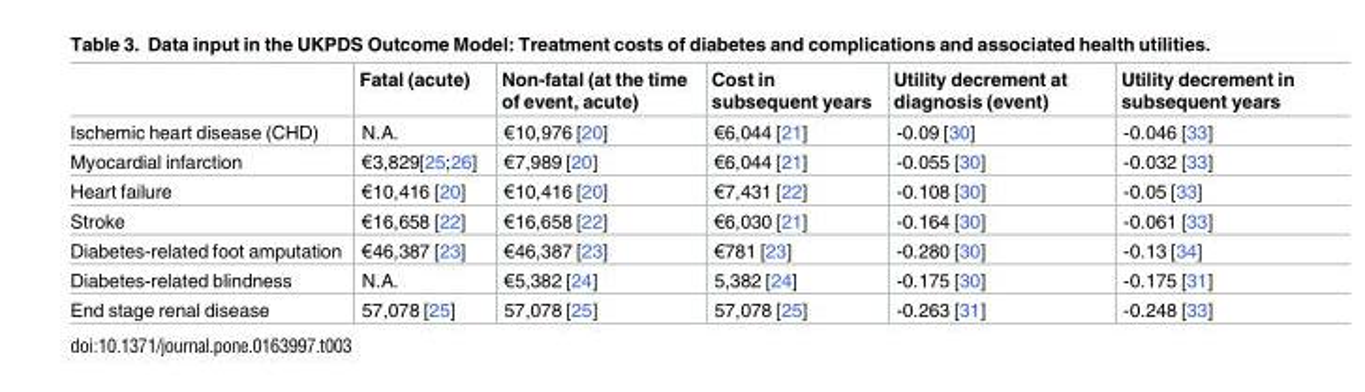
<table><thead><tr><td></td><td>Fatal (acute)</td><td>Non-fatal (at the time of event, acute)</td><td>Cost in subsequent years</td><td>Utility decrement at diagnosis (event)</td><td>Utility decrement in subsequent years</td></tr></thead><tbody><tr><td>Ischemic heart disease (CHD)</td><td>N.A.</td><td>€10,976 [20]</td><td>€6,044 [21]</td><td>-0.09 [30]</td><td>-0.046 [33]</td></tr><tr><td>Myocardial infarction</td><td>€3,829[25;26]</td><td>€7,989 [20]</td><td>€6,044 [21]</td><td>-0.055 [30]</td><td>-0.032 [33]</td></tr><tr><td>Heart failure</td><td>€10,416 [20]</td><td>€10,416 [20]</td><td>€7,431 [22]</td><td>-0.108 [30]</td><td>-0.05 [33]</td></tr><tr><td>Stroke</td><td>€16,658 [22]</td><td>€16,658 [22]</td><td>€6,030 [21]</td><td>-0.164 [30]</td><td>-0.061 [33]</td></tr><tr><td>Diabetes-related foot amputation</td><td>€46,387 [23]</td><td>€46,387 [23]</td><td>€781 [23]</td><td>-0.280 [30]</td><td>-0.13 [34]</td></tr><tr><td>Diabetes-related blindness</td><td>N.A.</td><td>€5,382 [24]</td><td>5,382 [24]</td><td>-0.175 [30]</td><td>-0.175 [31]</td></tr><tr><td>End stage renal disease</td><td>57,078 [25]</td><td>57,078 [25]</td><td>57,078 [25]</td><td>-0.263 [31]</td><td>-0.248 [33]</td></tr></tbody></table>